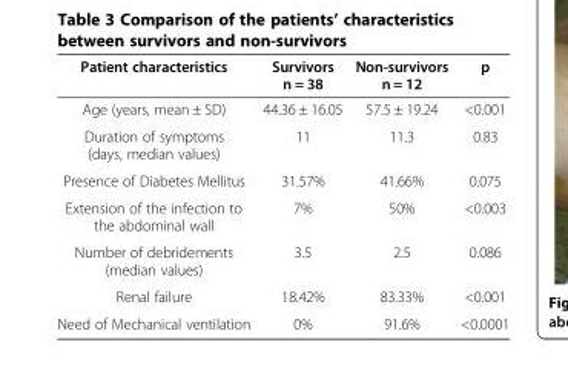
<table><thead><tr><td>Patient characteristics</td><td>Survivors n = 38</td><td>Non-survivors n = 12</td><td>p</td></tr></thead><tbody><tr><td>Age (years, mean ± SD)</td><td>44.36 ± 16.05</td><td>57.5 ± 19.24</td><td>&lt;0.001</td></tr><tr><td>Duration of symptoms (days, median values)</td><td>11</td><td>11.3</td><td>0.83</td></tr><tr><td>Presence of Diabetes Mellitus</td><td>31.57%</td><td>41.66%</td><td>0.075</td></tr><tr><td>Extension of the infection to the abdominal wall</td><td>7%</td><td>50%</td><td>&lt;0.003</td></tr><tr><td>Number of debridements (median values)</td><td>3.5</td><td>2.5</td><td>0.086</td></tr><tr><td>Renal failure</td><td>18.42%</td><td>83.33%</td><td>&lt;0.001</td></tr><tr><td>Need of Mechanical ventilation</td><td>0%</td><td>91.6%</td><td>&lt;0.0001</td></tr></tbody></table>